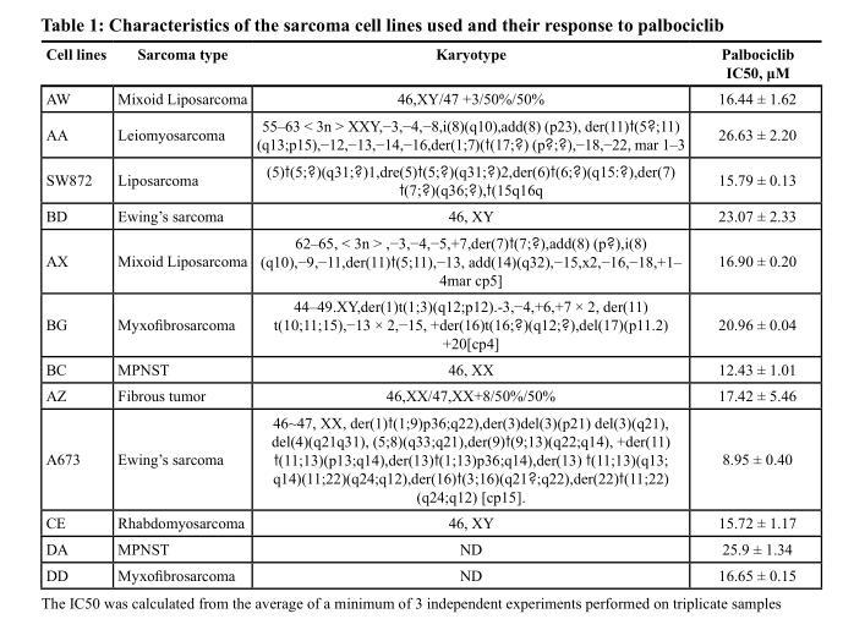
<table><thead><tr><td>Cell lines</td><td>Sarcoma type</td><td>Karyotype</td><td>Palbociclib IC50, μM</td></tr></thead><tbody><tr><td>AW</td><td>Mixoid Liposarcoma</td><td>46,XY/47 +3/50%/50%</td><td>16.44 ± 1.62</td></tr><tr><td>AA</td><td>Leiomyosarcoma</td><td>55–63 &lt; 3n &gt; XXY,−3,−4,−8,i(8)(q10),add(8) (p23), der(11)t(5?;11) (q13;p15),−12,−13,−14,−16,der(1;7)(t(17;?) (p?;?),−18,−22, mar 1–3</td><td>26.63 ± 2.20</td></tr><tr><td>SW872</td><td>Liposarcoma</td><td>(5)t(5;?)(q31;?)1,dre(5)t(5;?)(q31;?)2,der(6)t(6;?)(q15:?),der(7) t(7;?)(q36;?),t(15q16q</td><td>15.79 ± 0.13</td></tr><tr><td>BD</td><td>Ewing’s sarcoma</td><td>46, XY</td><td>23.07 ± 2.33</td></tr><tr><td>AX</td><td>Mixoid Liposarcoma</td><td>62–65, &lt; 3n &gt; ,−3,−4,−5,+7,der(7)t(7;?),add(8) (p?),i(8) (q10),−9,−11,der(11)t(5;11),−13, add(14)(q32),−15,x2,−16,−18,+1– 4mar cp5]</td><td>16.90 ± 0.20</td></tr><tr><td>BG</td><td>Myxofibrosarcoma</td><td>44–49.XY,der(1)t(1;3)(q12;p12).-3,−4,+6,+7 × 2, der(11) t(10;11;15),−13 × 2,−15, +der(16)t(16;?)(q12;?),del(17)(p11.2) +20[cp4]</td><td>20.96 ± 0.04</td></tr><tr><td>BC</td><td>MPNST</td><td>46, XX</td><td>12.43 ± 1.01</td></tr><tr><td>AZ</td><td>Fibrous tumor</td><td>46,XX/47,XX+8/50%/50%</td><td>17.42 ± 5.46</td></tr><tr><td>A673</td><td>Ewing’s sarcoma</td><td>46~47, XX, der(1)t(1;9)p36;q22),der(3)del(3)(p21) del(3)(q21), del(4)(q21q31), (5;8)(q33;q21),der(9)t(9;13)(q22;q14), +der(11) t(11;13)(p13;q14),der(13)t(1;13)p36;q14),der(13) t(11;13)(q13; q14)(11;22)(q24;q12),der(16)t(3;16)(q21?;q22),der(22)t(11;22) (q24;q12) [cp15].</td><td>8.95 ± 0.40</td></tr><tr><td>CE</td><td>Rhabdomyosarcoma</td><td>46, XY</td><td>15.72 ± 1.17</td></tr><tr><td>DA</td><td>MPNST</td><td>ND</td><td>25.9 ± 1.34</td></tr><tr><td>DD</td><td>Myxofibrosarcoma</td><td>ND</td><td>16.65 ± 0.15</td></tr></tbody></table>